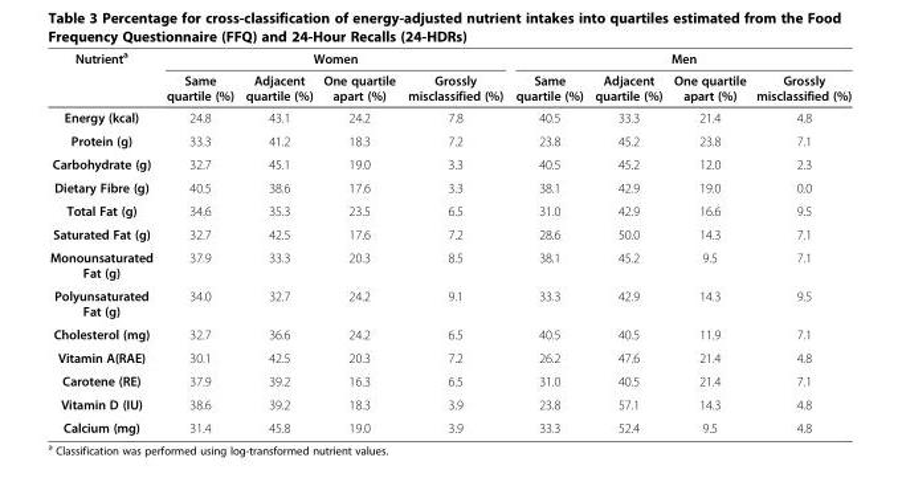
<table><thead><tr><td rowspan="2">Nutrient<sup>a</sup></td><td colspan="4">Women</td><td colspan="4">Men</td></tr><tr><td>Same quartile (%)</td><td>Adjacent quartile (%)</td><td>One quartile apart (%)</td><td>Grossly misclassified (%)</td><td>Same quartile (%)</td><td>Adjacent quartile (%)</td><td>One quartile apart (%)</td><td>Grossly misclassified (%)</td></tr></thead><tbody><tr><td>Energy (kcal)</td><td>24.8</td><td>43.1</td><td>24.2</td><td>7.8</td><td>40.5</td><td>33.3</td><td>21.4</td><td>4.8</td></tr><tr><td>Protein (g)</td><td>33.3</td><td>41.2</td><td>18.3</td><td>7.2</td><td>23.8</td><td>45.2</td><td>23.8</td><td>7.1</td></tr><tr><td>Carbohydrate (g)</td><td>32.7</td><td>45.1</td><td>19.0</td><td>3.3</td><td>40.5</td><td>45.2</td><td>12.0</td><td>2.3</td></tr><tr><td>Dietary Fibre (g)</td><td>40.5</td><td>38.6</td><td>17.6</td><td>3.3</td><td>38.1</td><td>42.9</td><td>19.0</td><td>0.0</td></tr><tr><td>Total Fat (g)</td><td>34.6</td><td>35.3</td><td>23.5</td><td>6.5</td><td>31.0</td><td>42.9</td><td>16.6</td><td>9.5</td></tr><tr><td>Saturated Fat (g)</td><td>32.7</td><td>42.5</td><td>17.6</td><td>7.2</td><td>28.6</td><td>50.0</td><td>14.3</td><td>7.1</td></tr><tr><td>Monounsaturated Fat (g)</td><td>37.9</td><td>33.3</td><td>20.3</td><td>8.5</td><td>38.1</td><td>45.2</td><td>9.5</td><td>7.1</td></tr><tr><td>Polyunsaturated Fat (g)</td><td>34.0</td><td>32.7</td><td>24.2</td><td>9.1</td><td>33.3</td><td>42.9</td><td>14.3</td><td>9.5</td></tr><tr><td>Cholesterol (mg)</td><td>32.7</td><td>36.6</td><td>24.2</td><td>6.5</td><td>40.5</td><td>40.5</td><td>11.9</td><td>7.1</td></tr><tr><td>Vitamin A(RAE)</td><td>30.1</td><td>42.5</td><td>20.3</td><td>7.2</td><td>26.2</td><td>47.6</td><td>21.4</td><td>4.8</td></tr><tr><td>Carotene (RE)</td><td>37.9</td><td>39.2</td><td>16.3</td><td>6.5</td><td>31.0</td><td>40.5</td><td>21.4</td><td>7.1</td></tr><tr><td>Vitamin D (IU)</td><td>38.6</td><td>39.2</td><td>18.3</td><td>3.9</td><td>23.8</td><td>57.1</td><td>14.3</td><td>4.8</td></tr><tr><td>Calcium (mg)</td><td>31.4</td><td>45.8</td><td>19.0</td><td>3.9</td><td>33.3</td><td>52.4</td><td>9.5</td><td>4.8</td></tr></tbody></table>